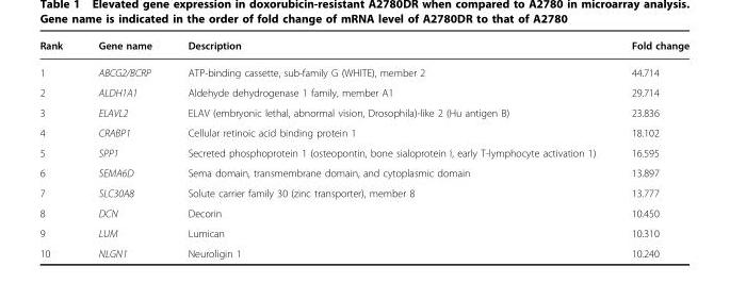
<table><thead><tr><td>Rank</td><td>Gene name</td><td>Description</td><td>Fold change</td></tr></thead><tbody><tr><td>1</td><td>ABCG2/BCRP</td><td>ATP-binding cassette, sub-family G (WHITE), member 2</td><td>44.714</td></tr><tr><td>2</td><td>ALDH1A1</td><td>Aldehyde dehydrogenase 1 family, member A1</td><td>29.714</td></tr><tr><td>3</td><td>ELAVL2</td><td>ELAV (embryonic lethal, abnormal vision, Drosophila)-like 2 (Hu antigen B)</td><td>23.836</td></tr><tr><td>4</td><td>CRABP1</td><td>Cellular retinoic acid binding protein 1</td><td>18.102</td></tr><tr><td>5</td><td>SPP1</td><td>Secreted phosphoprotein 1 (osteopontin, bone sialoprotein I, early T-lymphocyte activation 1)</td><td>16.595</td></tr><tr><td>6</td><td>SEMA6D</td><td>Sema domain, transmembrane domain, and cytoplasmic domain</td><td>13.897</td></tr><tr><td>7</td><td>SLC30A8</td><td>Solute carrier family 30 (zinc transporter), member 8</td><td>13.777</td></tr><tr><td>8</td><td>DCN</td><td>Decorin</td><td>10.450</td></tr><tr><td>9</td><td>LUM</td><td>Lumican</td><td>10.310</td></tr><tr><td>10</td><td>NLGN1</td><td>Neuroligin 1</td><td>10.240</td></tr></tbody></table>